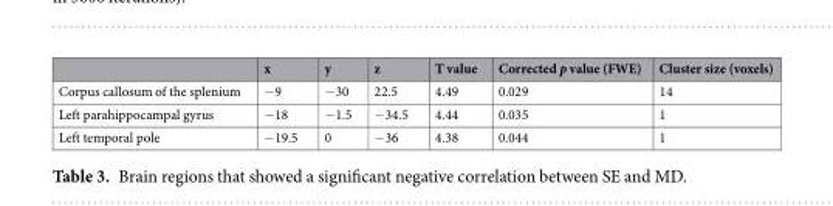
<table><thead><tr><td></td><td>x</td><td>y</td><td>z</td><td>T value</td><td>Corrected p value (FWE)</td><td>Cluster size (voxels)</td></tr></thead><tbody><tr><td>Corpus callosum of the splenium</td><td>−9</td><td>−30</td><td>22.5</td><td>4.49</td><td>0.029</td><td>14</td></tr><tr><td>Left parahippocampal gyrus</td><td>−18</td><td>−1.5</td><td>−34.5</td><td>4.44</td><td>0.035</td><td>1</td></tr><tr><td>Left temporal pole</td><td>−19.5</td><td>0</td><td>−36</td><td>4.38</td><td>0.044</td><td>1</td></tr></tbody></table>